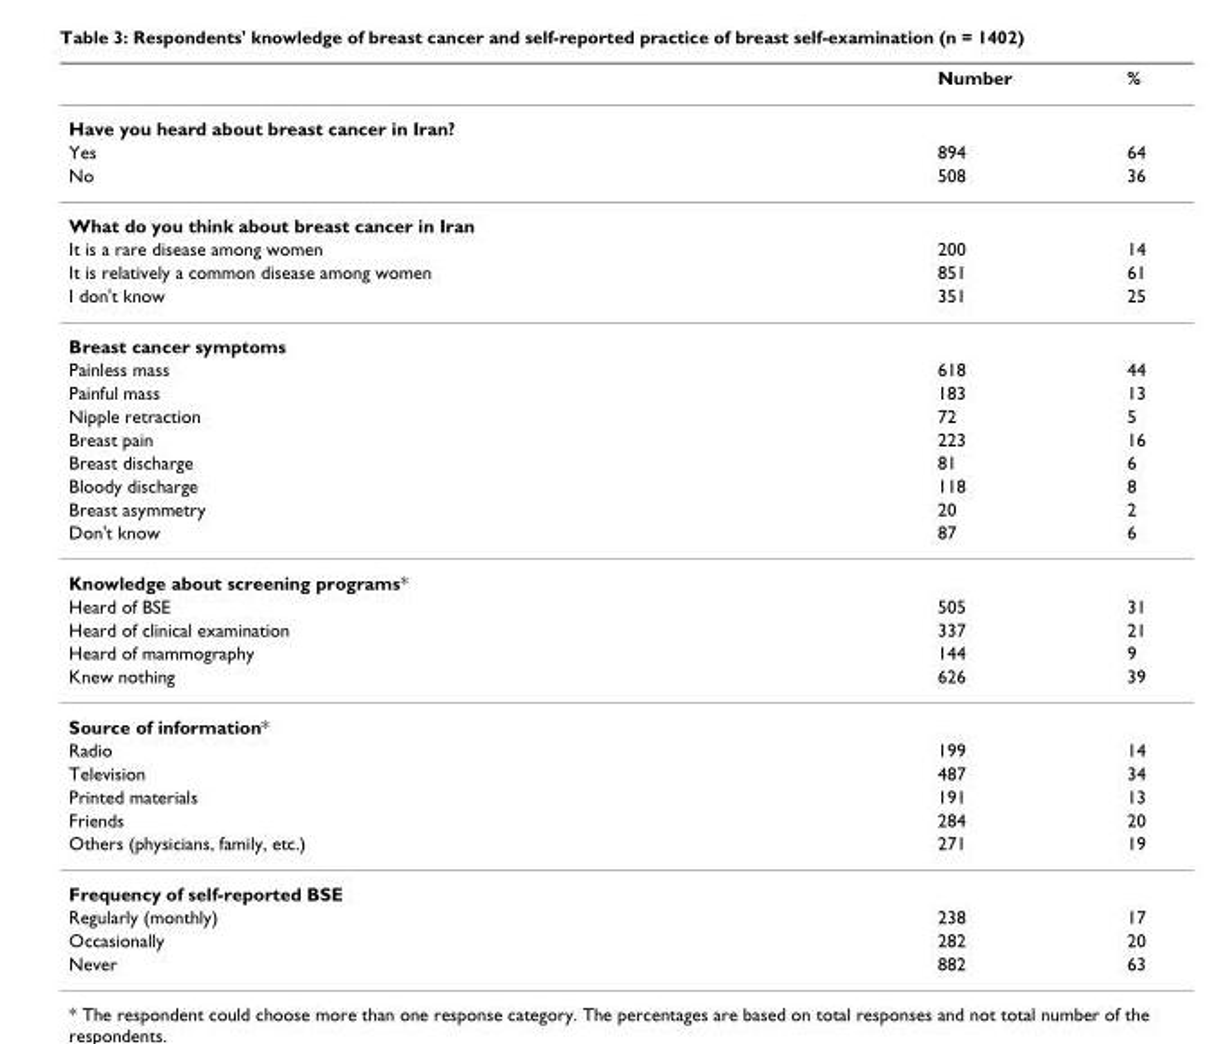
<table><thead><tr><td></td><td>Number</td><td>%</td></tr></thead><tbody><tr><td colspan="3">Have you heard about breast cancer in Iran?</td></tr><tr><td>Yes</td><td>894</td><td>64</td></tr><tr><td>No</td><td>508</td><td>36</td></tr><tr><td colspan="3">What do you think about breast cancer in Iran</td></tr><tr><td>It is a rare disease among women</td><td>200</td><td>14</td></tr><tr><td>It is relatively a common disease among women</td><td>851</td><td>61</td></tr><tr><td>I don&#x27;t know</td><td>351</td><td>25</td></tr><tr><td colspan="3">Breast cancer symptoms</td></tr><tr><td>Painless mass</td><td>618</td><td>44</td></tr><tr><td>Painful mass</td><td>183</td><td>13</td></tr><tr><td>Nipple retraction</td><td>72</td><td>5</td></tr><tr><td>Breast pain</td><td>223</td><td>16</td></tr><tr><td>Breast discharge</td><td>81</td><td>6</td></tr><tr><td>Bloody discharge</td><td>118</td><td>8</td></tr><tr><td>Breast asymmetry</td><td>20</td><td>2</td></tr><tr><td>Don&#x27;t know</td><td>87</td><td>6</td></tr><tr><td colspan="3">Knowledge about screening programs*</td></tr><tr><td>Heard of BSE</td><td>505</td><td>31</td></tr><tr><td>Heard of clinical examination</td><td>337</td><td>21</td></tr><tr><td>Heard of mammography</td><td>144</td><td>9</td></tr><tr><td>Knew nothing</td><td>626</td><td>39</td></tr><tr><td colspan="3">Source of information*</td></tr><tr><td>Radio</td><td>199</td><td>14</td></tr><tr><td>Television</td><td>487</td><td>34</td></tr><tr><td>Printed materials</td><td>191</td><td>13</td></tr><tr><td>Friends</td><td>284</td><td>20</td></tr><tr><td>Others (physicians, family, etc.)</td><td>271</td><td>19</td></tr><tr><td colspan="3">Frequency of self-reported BSE</td></tr><tr><td>Regularly (monthly)</td><td>238</td><td>17</td></tr><tr><td>Occasionally</td><td>282</td><td>20</td></tr><tr><td>Never</td><td>882</td><td>63</td></tr></tbody></table>